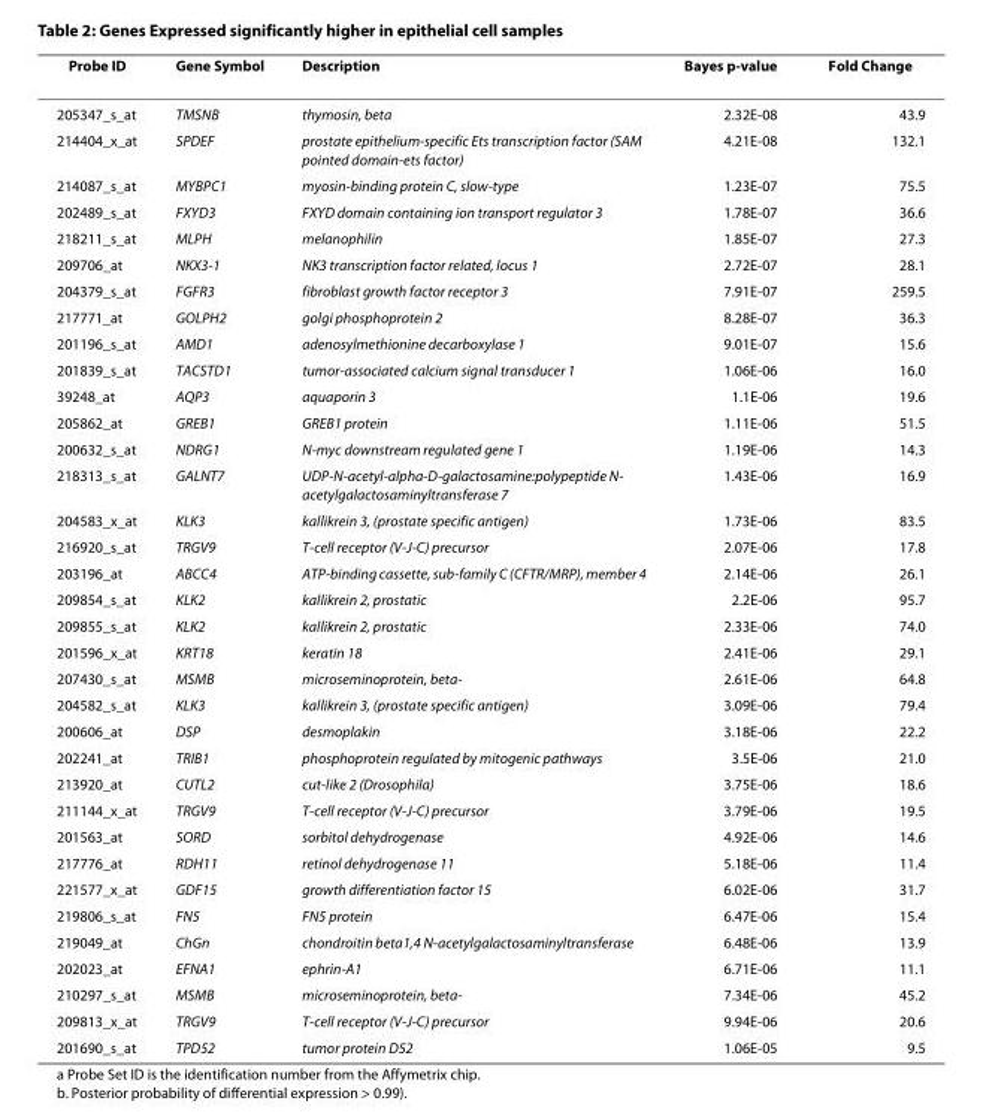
<table><thead><tr><td>Probe ID</td><td>Gene Symbol</td><td>Description</td><td>Bayes p-value</td><td>Fold Change</td></tr></thead><tbody><tr><td>205347_s_at</td><td>TMSNB</td><td>thymosin, beta</td><td>2.32E-08</td><td>43.9</td></tr><tr><td>214404_x_at</td><td>SPDEF</td><td>prostate epithelium-specific Ets transcription factor (SAM pointed domain-ets factor)</td><td>4.21E-08</td><td>132.1</td></tr><tr><td>214087_s_at</td><td>MYBPC1</td><td>myosin-binding protein C, slow-type</td><td>1.23E-07</td><td>75.5</td></tr><tr><td>202489_s_at</td><td>FXYD3</td><td>FXYD domain containing ion transport regulator 3</td><td>1.78E-07</td><td>36.6</td></tr><tr><td>218211_s_at</td><td>MLPH</td><td>melanophilin</td><td>1.85E-07</td><td>27.3</td></tr><tr><td>209706_at</td><td>NKX3-1</td><td>NK3 transcription factor related, locus 1</td><td>2.72E-07</td><td>28.1</td></tr><tr><td>204379_s_at</td><td>FGFR3</td><td>fibroblast growth factor receptor 3</td><td>7.91E-07</td><td>259.5</td></tr><tr><td>217771_at</td><td>GOLPH2</td><td>golgi phosphoprotein 2</td><td>8.28E-07</td><td>36.3</td></tr><tr><td>201196_s_at</td><td>AMD1</td><td>adenosylmethionine decarboxylase 1</td><td>9.01E-07</td><td>15.6</td></tr><tr><td>201839_s_at</td><td>TACSTD1</td><td>tumor-associated calcium signal transducer 1</td><td>1.06E-06</td><td>16.0</td></tr><tr><td>39248_at</td><td>AQP3</td><td>aquaporin 3</td><td>1.1E-06</td><td>19.6</td></tr><tr><td>205862_at</td><td>GREB1</td><td>GREB1 protein</td><td>1.11E-06</td><td>51.5</td></tr><tr><td>200632_s_at</td><td>NDRG1</td><td>N-myc downstream regulated gene 1</td><td>1.19E-06</td><td>14.3</td></tr><tr><td>218313_s_at</td><td>GALNT7</td><td>UDP-N-acetyl-alpha-D-galactosamine:polypeptide N- acetylgalactosaminyltransferase 7</td><td>1.43E-06</td><td>16.9</td></tr><tr><td>204583_x_at</td><td>KLK3</td><td>kallikrein 3, (prostate specific antigen)</td><td>1.73E-06</td><td>83.5</td></tr><tr><td>216920_s_at</td><td>TRGV9</td><td>T-cell receptor (V-J-C) precursor</td><td>2.07E-06</td><td>17.8</td></tr><tr><td>203196_at</td><td>ABCC4</td><td>ATP-binding cassette, sub-family C (CFTR/MRP), member 4</td><td>2.14E-06</td><td>26.1</td></tr><tr><td>209854_s_at</td><td>KLK2</td><td>kallikrein 2, prostatic</td><td>2.2E-06</td><td>95.7</td></tr><tr><td>209855_s_at</td><td>KLK2</td><td>kallikrein 2, prostatic</td><td>2.33E-06</td><td>74.0</td></tr><tr><td>201596_x_at</td><td>KRT18</td><td>keratin 18</td><td>2.41E-06</td><td>29.1</td></tr><tr><td>207430_s_at</td><td>MSMB</td><td>microseminoprotein, beta-</td><td>2.61E-06</td><td>64.8</td></tr><tr><td>204582_s_at</td><td>KLK3</td><td>kallikrein 3, (prostate specific antigen)</td><td>3.09E-06</td><td>79.4</td></tr><tr><td>200606_at</td><td>DSP</td><td>desmoplakin</td><td>3.18E-06</td><td>22.2</td></tr><tr><td>202241_at</td><td>TRIB1</td><td>phosphoprotein regulated by mitogenic pathways</td><td>3.5E-06</td><td>21.0</td></tr><tr><td>213920_at</td><td>CUTL2</td><td>cut-like 2 (Drosophila)</td><td>3.75E-06</td><td>18.6</td></tr><tr><td>211144_x_at</td><td>TRGV9</td><td>T-cell receptor (V-J-C) precursor</td><td>3.79E-06</td><td>19.5</td></tr><tr><td>201563_at</td><td>SORD</td><td>sorbitol dehydrogenase</td><td>4.92E-06</td><td>14.6</td></tr><tr><td>217776_at</td><td>RDH11</td><td>retinol dehydrogenase 11</td><td>5.18E-06</td><td>11.4</td></tr><tr><td>221577_x_at</td><td>GDF15</td><td>growth differentiation factor 15</td><td>6.02E-06</td><td>31.7</td></tr><tr><td>219806_s_at</td><td>FN5</td><td>FN5 protein</td><td>6.47E-06</td><td>15.4</td></tr><tr><td>219049_at</td><td>ChGn</td><td>chondroitin beta1,4 N-acetylgalactosaminyltransferase</td><td>6.48E-06</td><td>13.9</td></tr><tr><td>202023_at</td><td>EFNA1</td><td>ephrin-A1</td><td>6.71E-06</td><td>11.1</td></tr><tr><td>210297_s_at</td><td>MSMB</td><td>microseminoprotein, beta-</td><td>7.34E-06</td><td>45.2</td></tr><tr><td>209813_x_at</td><td>TRGV9</td><td>T-cell receptor (V-J-C) precursor</td><td>9.94E-06</td><td>20.6</td></tr><tr><td>201690_s_at</td><td>TPD52</td><td>tumor protein D52</td><td>1.06E-05</td><td>9.5</td></tr></tbody></table>